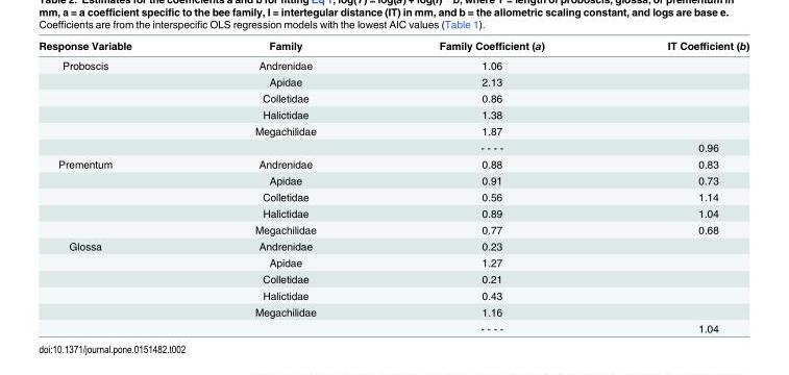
<table><thead><tr><td>Response Variable</td><td>Family</td><td>Family Coefficient (a)</td><td>IT Coefficient (b)</td></tr></thead><tbody><tr><td rowspan="6">Proboscis</td><td>Andrenidae</td><td>1.06</td><td></td></tr><tr><td>Apidae</td><td>2.13</td><td></td></tr><tr><td>Colletidae</td><td>0.86</td><td></td></tr><tr><td>Halictidae</td><td>1.38</td><td></td></tr><tr><td>Megachilidae</td><td>1.87</td><td></td></tr><tr><td></td><td>- - - -</td><td>0.96</td></tr><tr><td rowspan="5">Prementum</td><td>Andrenidae</td><td>0.88</td><td>0.83</td></tr><tr><td>Apidae</td><td>0.91</td><td>0.73</td></tr><tr><td>Colletidae</td><td>0.56</td><td>1.14</td></tr><tr><td>Halictidae</td><td>0.89</td><td>1.04</td></tr><tr><td>Megachilidae</td><td>0.77</td><td>0.68</td></tr><tr><td rowspan="6">Glossa</td><td>Andrenidae</td><td>0.23</td><td></td></tr><tr><td>Apidae</td><td>1.27</td><td></td></tr><tr><td>Colletidae</td><td>0.21</td><td></td></tr><tr><td>Halictidae</td><td>0.43</td><td></td></tr><tr><td>Megachilidae</td><td>1.16</td><td></td></tr><tr><td></td><td>- - - -</td><td>1.04</td></tr></tbody></table>